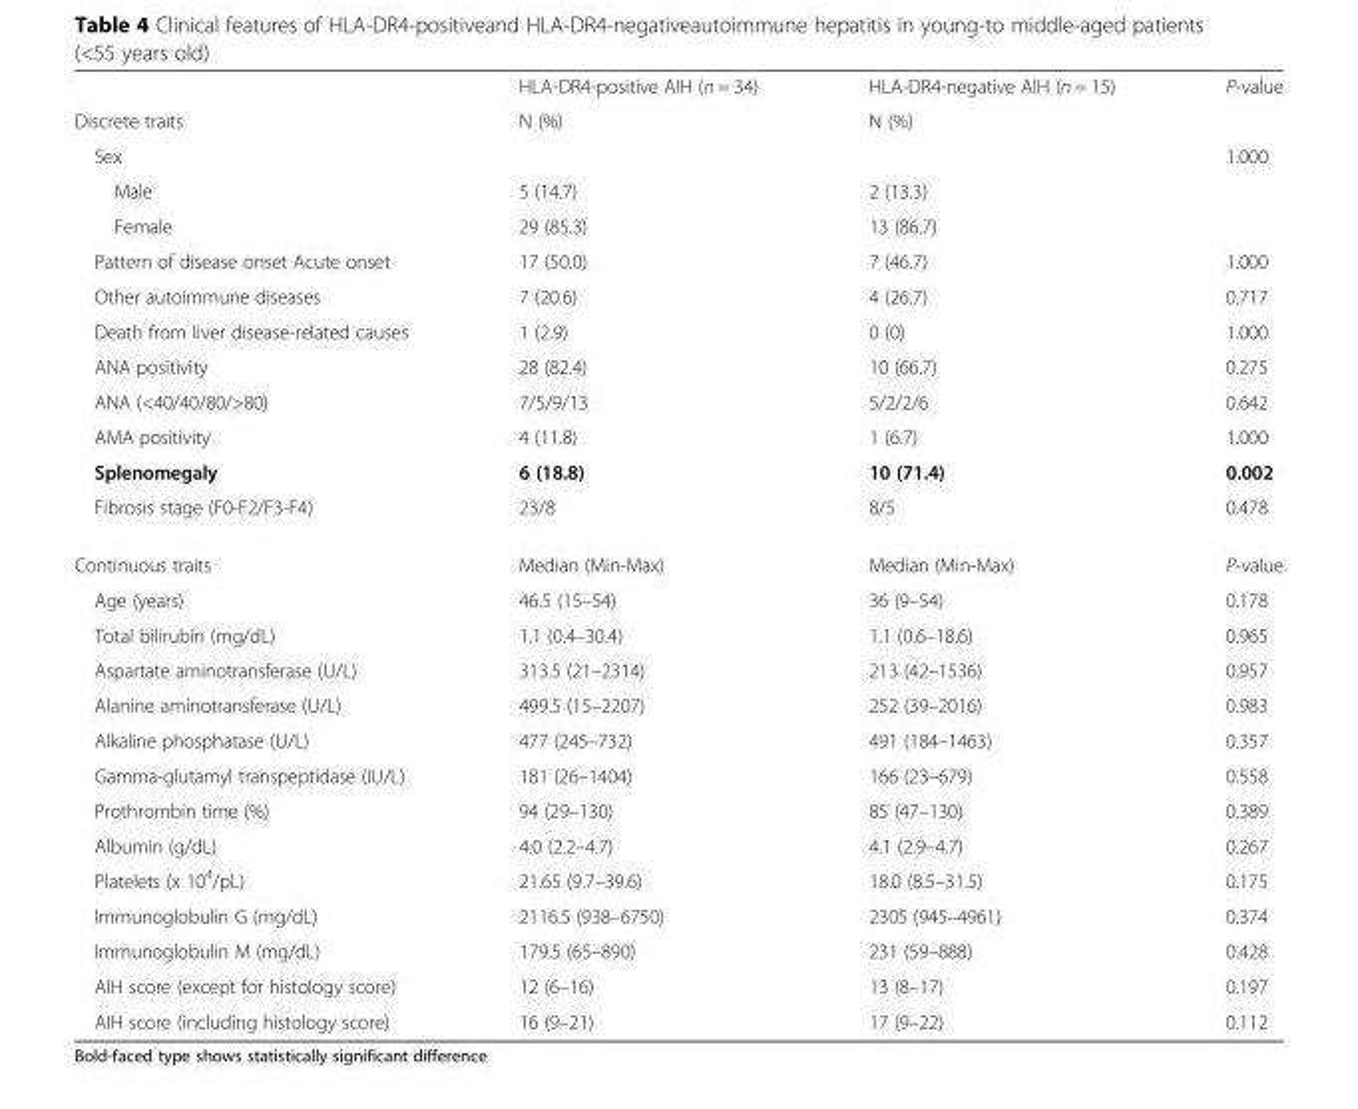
<table><thead><tr><td></td><td>HLA-DR4-positive AIH (n = 34)</td><td>HLA-DR4-negative AIH (n = 15)</td><td>P-value</td></tr></thead><tbody><tr><td>Discrete traits</td><td>N (%)</td><td>N (%)</td><td></td></tr><tr><td colspan="3">Sex</td><td rowspan="3">1.000</td></tr><tr><td>Male</td><td>5 (14.7)</td><td>2 (13.3)</td></tr><tr><td>Female</td><td>29 (85.3)</td><td>13 (86.7)</td></tr><tr><td>Pattern of disease onset Acute onset</td><td>17 (50.0)</td><td>7 (46.7)</td><td>1.000</td></tr><tr><td>Other autoimmune diseases</td><td>7 (20.6)</td><td>4 (26.7)</td><td>0.717</td></tr><tr><td>Death from liver disease-related causes</td><td>1 (2.9)</td><td>0 (0)</td><td>1.000</td></tr><tr><td>ANA positivity</td><td>28 (82.4)</td><td>10 (66.7)</td><td>0.275</td></tr><tr><td>ANA (&lt;40/40/80/&gt;80)</td><td>7/5/9/13</td><td>5/2/2/6</td><td>0.642</td></tr><tr><td>AMA positivity</td><td>4 (11.8)</td><td>1 (6.7)</td><td>1.000</td></tr><tr><td>Splenomegaly</td><td>6 (18.8)</td><td>10 (71.4)</td><td>0.002</td></tr><tr><td>Fibrosis stage (F0-F2/F3-F4)</td><td>23/8</td><td>8/5</td><td>0.478</td></tr><tr><td>Continuous traits</td><td>Median (Min-Max)</td><td>Median (Min-Max)</td><td>P-value</td></tr><tr><td>Age (years)</td><td>46.5 (15–54)</td><td>36 (9–54)</td><td>0.178</td></tr><tr><td>Total bilirubin (mg/dL)</td><td>1.1 (0.4–30.4)</td><td>1.1 (0.6–18.6)</td><td>0.965</td></tr><tr><td>Aspartate aminotransferase (U/L)</td><td>313.5 (21–2314)</td><td>213 (42–1536)</td><td>0.957</td></tr><tr><td>Alanine aminotransferase (U/L)</td><td>499.5 (15–2207)</td><td>252 (39–2016)</td><td>0.983</td></tr><tr><td>Alkaline phosphatase (U/L)</td><td>477 (245–732)</td><td>491 (184–1463)</td><td>0.357</td></tr><tr><td>Gamma-glutamyl transpeptidase (IU/L)</td><td>181 (26–1404)</td><td>166 (23–679)</td><td>0.558</td></tr><tr><td>Prothrombin time (%)</td><td>94 (29–130)</td><td>85 (47–130)</td><td>0.389</td></tr><tr><td>Albumin (g/dL)</td><td>4.0 (2.2–4.7)</td><td>4.1 (2.9–4.7)</td><td>0.267</td></tr><tr><td>Platelets (x 10<sup>4</sup>/pL)</td><td>21.65 (9.7–39.6)</td><td>18.0 (8.5–31.5)</td><td>0.175</td></tr><tr><td>Immunoglobulin G (mg/dL)</td><td>2116.5 (938–6750)</td><td>2305 (945–4961)</td><td>0.374</td></tr><tr><td>Immunoglobulin M (mg/dL)</td><td>179.5 (65–890)</td><td>231 (59–888)</td><td>0.428</td></tr><tr><td>AIH score (except for histology score)</td><td>12 (6–16)</td><td>13 (8–17)</td><td>0.197</td></tr><tr><td>AIH score (including histology score)</td><td>16 (9–21)</td><td>17 (9–22)</td><td>0.112</td></tr></tbody></table>